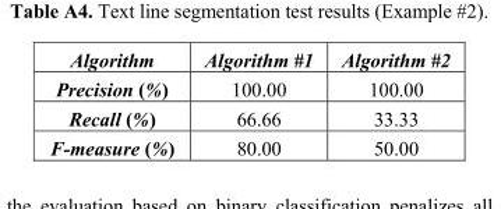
<table><thead><tr><td>Algorithm</td><td>Algorithm #1</td><td>Algorithm #2</td></tr></thead><tbody><tr><td>Precision (%)</td><td>100.00</td><td>100.00</td></tr><tr><td>Recall (%)</td><td>66.66</td><td>33.33</td></tr><tr><td>F-measure (%)</td><td>80.00</td><td>50.00</td></tr></tbody></table>